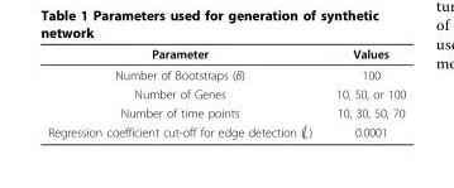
<table><thead><tr><td>Parameter</td><td>Values</td></tr></thead><tbody><tr><td>Number of Bootstraps (B)</td><td>100</td></tr><tr><td>Number of Genes</td><td>10, 50, or 100</td></tr><tr><td>Number of time points</td><td>10, 30, 50, 70</td></tr><tr><td>Regression coefficient cut-off for edge detection (∈)</td><td>0.0001</td></tr></tbody></table>